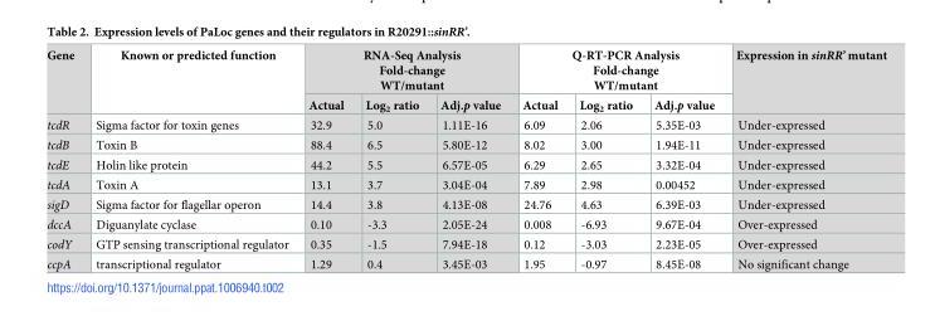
<table><thead><tr><td rowspan="2">Gene</td><td rowspan="2">Known or predicted function</td><td colspan="3">RNA-Seq Analysis Fold-change WT/mutant</td><td colspan="3">Q-RT-PCR Analysis Fold-change WT/mutant</td><td rowspan="2">Expression in sinRR’ mutant</td></tr><tr><td>Actual</td><td>Log<sub>2</sub> ratio</td><td>Adj.p value</td><td>Actual</td><td>Log<sub>2</sub> ratio</td><td>Adj.p value</td></tr></thead><tbody><tr><td>tcdR</td><td>Sigma factor for toxin genes</td><td>32.9</td><td>5.0</td><td>1.11E-16</td><td>6.09</td><td>2.06</td><td>5.35E-03</td><td>Under-expressed</td></tr><tr><td>tcdB</td><td>Toxin B</td><td>88.4</td><td>6.5</td><td>5.80E-12</td><td>8.02</td><td>3.00</td><td>1.94E-11</td><td>Under-expressed</td></tr><tr><td>tcdE</td><td>Holin like protein</td><td>44.2</td><td>5.5</td><td>6.57E-05</td><td>6.29</td><td>2.65</td><td>3.32E-04</td><td>Under-expressed</td></tr><tr><td>tcdA</td><td>Toxin A</td><td>13.1</td><td>3.7</td><td>3.04E-04</td><td>7.89</td><td>2.98</td><td>0.00452</td><td>Under-expressed</td></tr><tr><td>sigD</td><td>Sigma factor for flagellar operon</td><td>14.4</td><td>3.8</td><td>4.13E-08</td><td>24.76</td><td>4.63</td><td>6.39E-03</td><td>Under-expressed</td></tr><tr><td>dccA</td><td>Diguanylate cyclase</td><td>0.10</td><td>-3.3</td><td>2.05E-24</td><td>0.008</td><td>-6.93</td><td>9.67E-04</td><td>Over-expressed</td></tr><tr><td>codY</td><td>GTP sensing transcriptional regulator</td><td>0.35</td><td>-1.5</td><td>7.94E-18</td><td>0.12</td><td>-3.03</td><td>2.23E-05</td><td>Over-expressed</td></tr><tr><td>ccpA</td><td>transcriptional regulator</td><td>1.29</td><td>0.4</td><td>3.45E-03</td><td>1.95</td><td>-0.97</td><td>8.45E-08</td><td>No significant change</td></tr></tbody></table>